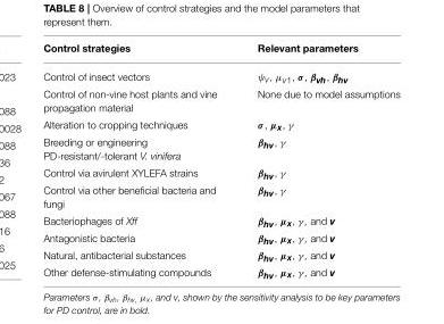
<table><thead><tr><td>Control strategies</td><td>Relevant parameters</td></tr></thead><tbody><tr><td>Control of insect vectors</td><td>ψv, µv1, σ, βvh, βhv</td></tr><tr><td>Control of non-vine host plants and vine propagation material</td><td>None due to model assumptions</td></tr><tr><td>Alteration to cropping techniques</td><td>σ, µx, γ</td></tr><tr><td>Breeding or engineering PD-resistant/-tolerant V. vinifera</td><td>βhv, γ</td></tr><tr><td>Control via avirulent XYLEFA strains</td><td>βhv, γ</td></tr><tr><td>Control via other beneficial bacteria and fungi</td><td>βhv, γ</td></tr><tr><td>Bacteriophages of Xff</td><td>βhv, µx, γ , and v</td></tr><tr><td>Antagonistic bacteria</td><td>βhv, µx, γ , and v</td></tr><tr><td>Natural, antibacterial substances</td><td>βhv, µx, γ , and v</td></tr><tr><td>Other defense-stimulating compounds</td><td>βhv, µx, γ , and v</td></tr></tbody></table>